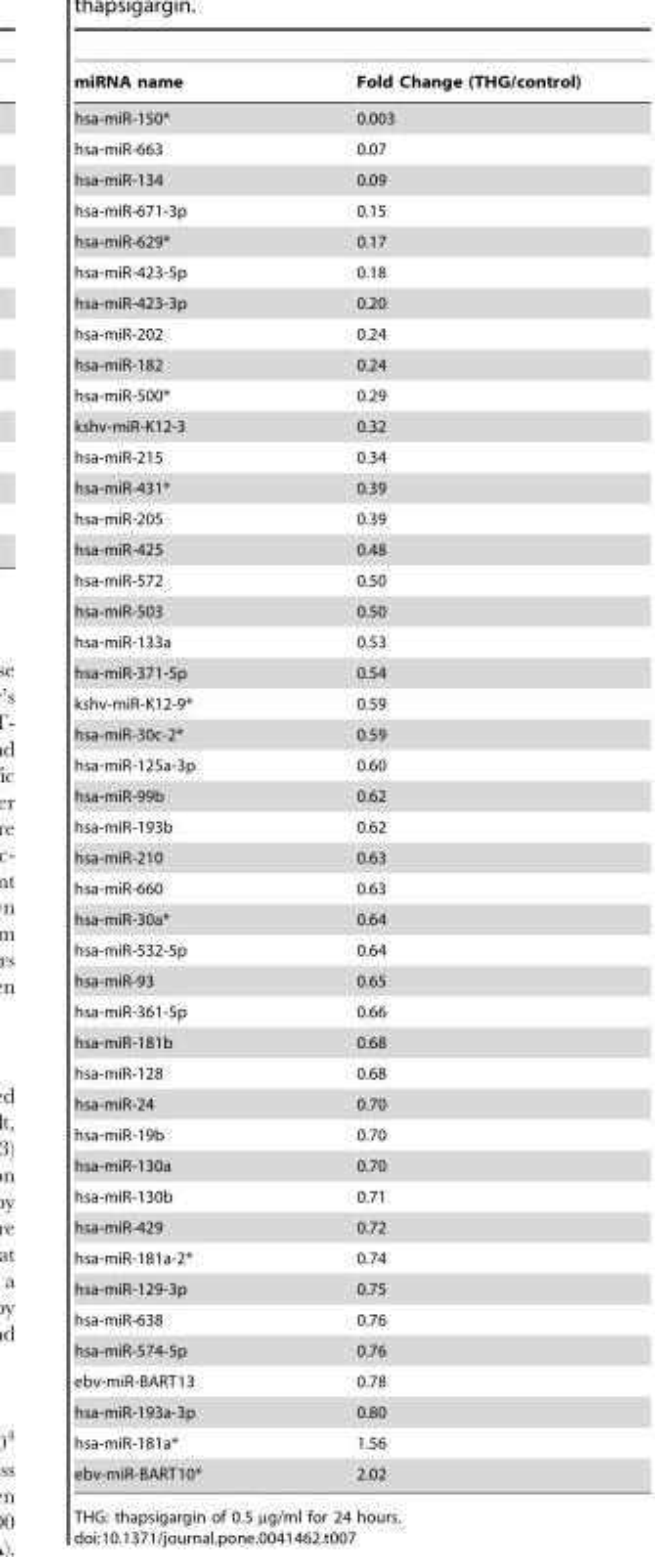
<table><thead><tr><td>miRNA name</td><td>Fold Change (THG/control)</td></tr></thead><tbody><tr><td>hsa-miR-150*</td><td>0.003</td></tr><tr><td>hsa-miR-663</td><td>0.07</td></tr><tr><td>hsa-miR-134</td><td>0.09</td></tr><tr><td>hsa-miR-671-3p</td><td>0.15</td></tr><tr><td>hsa-miR-629*</td><td>0.17</td></tr><tr><td>hsa-miR-423-5p</td><td>0.18</td></tr><tr><td>hsa-miR-423-3p</td><td>0.20</td></tr><tr><td>hsa-miR-202</td><td>0.24</td></tr><tr><td>hsa-miR-182</td><td>0.24</td></tr><tr><td>hsa-miR-500*</td><td>0.29</td></tr><tr><td>kshv-miR-K12-3</td><td>0.32</td></tr><tr><td>hsa-miR-215</td><td>0.34</td></tr><tr><td>hsa-miR-431*</td><td>0.39</td></tr><tr><td>hsa-miR-205</td><td>0.39</td></tr><tr><td>hsa-miR-425</td><td>0.48</td></tr><tr><td>hsa-miR-572</td><td>0.50</td></tr><tr><td>hsa-miR-503</td><td>0.50</td></tr><tr><td>hsa-miR-133a</td><td>0.53</td></tr><tr><td>hsa-miR-371-5p</td><td>0.54</td></tr><tr><td>kshv-miR-K12-9*</td><td>0.59</td></tr><tr><td>hsa-miR-30c-2*</td><td>0.59</td></tr><tr><td>hsa-miR-125a-3p</td><td>0.60</td></tr><tr><td>hsa-miR-99b</td><td>0.62</td></tr><tr><td>hsa-miR-193b</td><td>0.62</td></tr><tr><td>hsa-miR-210</td><td>0.63</td></tr><tr><td>hsa-miR-660</td><td>0.63</td></tr><tr><td>hsa-miR-30a*</td><td>0.64</td></tr><tr><td>hsa-miR-532-5p</td><td>0.64</td></tr><tr><td>hsa-miR-93</td><td>0.65</td></tr><tr><td>hsa-miR-361-5p</td><td>0.66</td></tr><tr><td>hsa-miR-181b</td><td>0.68</td></tr><tr><td>hsa-miR-128</td><td>0.68</td></tr><tr><td>hsa-miR-24</td><td>0.70</td></tr><tr><td>hsa-miR-19b</td><td>0.70</td></tr><tr><td>hsa-miR-130a</td><td>0.70</td></tr><tr><td>hsa-miR-130b</td><td>0.71</td></tr><tr><td>hsa-miR-429</td><td>0.72</td></tr><tr><td>hsa-miR-181a-2*</td><td>0.74</td></tr><tr><td>hsa-miR-129-3p</td><td>0.75</td></tr><tr><td>hsa-miR-638</td><td>0.76</td></tr><tr><td>hsa-miR-574-5p</td><td>0.76</td></tr><tr><td>ebv-miR-BART13</td><td>0.78</td></tr><tr><td>hsa-miR-193a-3p</td><td>0.80</td></tr><tr><td>hsa-miR-181a*</td><td>1.56</td></tr><tr><td>ebv-miR-BART10*</td><td>2.02</td></tr></tbody></table>